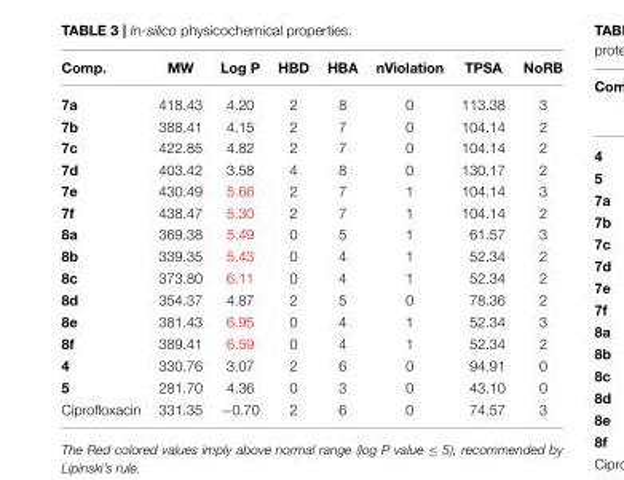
<table><thead><tr><td>Comp.</td><td>MW</td><td>Log P</td><td>HBD</td><td>HBA</td><td>nViolation</td><td>TPSA</td><td>NoRB</td></tr></thead><tbody><tr><td>7a</td><td>418.43</td><td>4.20</td><td>2</td><td>8</td><td>0</td><td>113.38</td><td>3</td></tr><tr><td>7b</td><td>388.41</td><td>4.15</td><td>2</td><td>7</td><td>0</td><td>104.14</td><td>2</td></tr><tr><td>7c</td><td>422.85</td><td>4.82</td><td>2</td><td>7</td><td>0</td><td>104.14</td><td>2</td></tr><tr><td>7d</td><td>403.42</td><td>3.58</td><td>4</td><td>8</td><td>0</td><td>130.17</td><td>2</td></tr><tr><td>7e</td><td>430.49</td><td>5.66</td><td>2</td><td>7</td><td>1</td><td>104.14</td><td>3</td></tr><tr><td>7f</td><td>438.47</td><td>5.30</td><td>2</td><td>7</td><td>1</td><td>104.14</td><td>2</td></tr><tr><td>8a</td><td>369.38</td><td>5.49</td><td>0</td><td>5</td><td>1</td><td>61.57</td><td>3</td></tr><tr><td>8b</td><td>339.35</td><td>5.43</td><td>0</td><td>4</td><td>1</td><td>52.34</td><td>2</td></tr><tr><td>8c</td><td>373.80</td><td>6.11</td><td>0</td><td>4</td><td>1</td><td>52.34</td><td>2</td></tr><tr><td>8d</td><td>354.37</td><td>4.87</td><td>2</td><td>5</td><td>0</td><td>78.36</td><td>2</td></tr><tr><td>8e</td><td>381.43</td><td>6.95</td><td>0</td><td>4</td><td>1</td><td>52.34</td><td>3</td></tr><tr><td>8f</td><td>389.41</td><td>6.59</td><td>0</td><td>4</td><td>1</td><td>52.34</td><td>2</td></tr><tr><td>4</td><td>330.76</td><td>3.07</td><td>2</td><td>6</td><td>0</td><td>94.91</td><td>0</td></tr><tr><td>5</td><td>281.70</td><td>4.36</td><td>0</td><td>3</td><td>0</td><td>43.10</td><td>0</td></tr><tr><td>Ciprofloxacin</td><td>331.35</td><td>−0.70</td><td>2</td><td>6</td><td>0</td><td>74.57</td><td>3</td></tr></tbody></table>